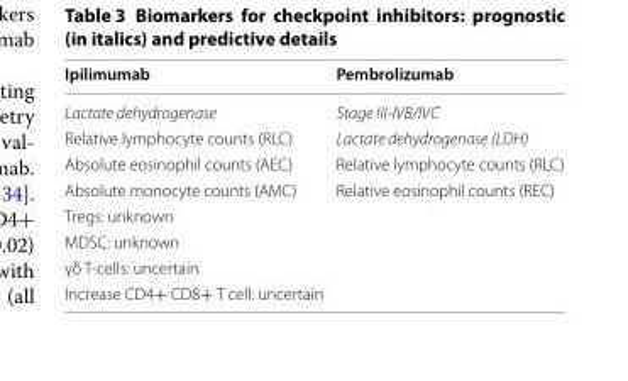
<table><thead><tr><td>Ipilimumab</td><td>Pembrolizumab</td></tr></thead><tbody><tr><td>Lactate dehydrogenase</td><td>Stage III-IVB/IVC</td></tr><tr><td>Relative lymphocyte counts (RLC)</td><td>Lactate dehydrogenase (LDH)</td></tr><tr><td>Absolute eosinophil counts (AEC)</td><td>Relative lymphocyte counts (RLC)</td></tr><tr><td>Absolute monocyte counts (AMC)</td><td>Relative eosinophil counts (REC)</td></tr><tr><td colspan="2">Tregs: unknown</td></tr><tr><td colspan="2">MDSC: unknown</td></tr><tr><td colspan="2">γδ T-cells: uncertain</td></tr><tr><td>Increase CD4+ CD8+ T cell: uncertain</td><td></td></tr></tbody></table>